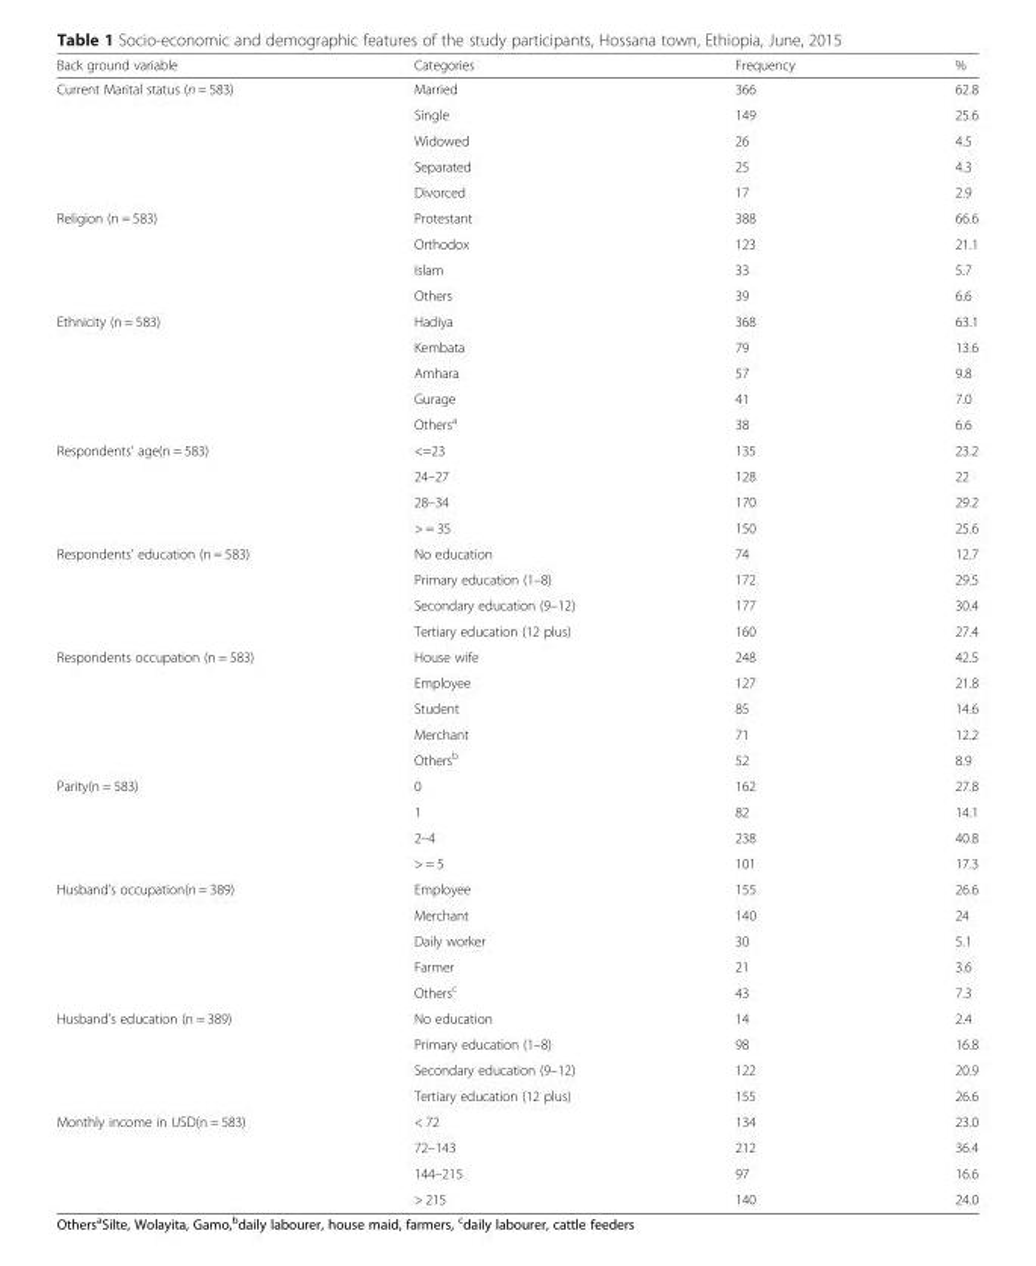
<table><thead><tr><td>Back ground variable</td><td>Categories</td><td>Frequency</td><td>%</td></tr></thead><tbody><tr><td rowspan="5">Current Marital status (n = 583)</td><td>Married</td><td>366</td><td>62.8</td></tr><tr><td>Single</td><td>149</td><td>25.6</td></tr><tr><td>Widowed</td><td>26</td><td>4.5</td></tr><tr><td>Separated</td><td>25</td><td>4.3</td></tr><tr><td>Divorced</td><td>17</td><td>2.9</td></tr><tr><td rowspan="4">Religion (n = 583)</td><td>Protestant</td><td>388</td><td>66.6</td></tr><tr><td>Orthodox</td><td>123</td><td>21.1</td></tr><tr><td>Islam</td><td>33</td><td>5.7</td></tr><tr><td>Others</td><td>39</td><td>6.6</td></tr><tr><td rowspan="5">Ethnicity (n = 583)</td><td>Hadiya</td><td>368</td><td>63.1</td></tr><tr><td>Kembata</td><td>79</td><td>13.6</td></tr><tr><td>Amhara</td><td>57</td><td>9.8</td></tr><tr><td>Gurage</td><td>41</td><td>7.0</td></tr><tr><td>Others<sup>a</sup></td><td>38</td><td>6.6</td></tr><tr><td rowspan="4">Respondents’ age(n = 583)</td><td>&lt;=23</td><td>135</td><td>23.2</td></tr><tr><td>24–27</td><td>128</td><td>22</td></tr><tr><td>28–34</td><td>170</td><td>29.2</td></tr><tr><td>&gt; = 35</td><td>150</td><td>25.6</td></tr><tr><td rowspan="4">Respondents’ education (n = 583)</td><td>No education</td><td>74</td><td>12.7</td></tr><tr><td>Primary education (1–8)</td><td>172</td><td>29.5</td></tr><tr><td>Secondary education (9–12)</td><td>177</td><td>30.4</td></tr><tr><td>Tertiary education (12 plus)</td><td>160</td><td>27.4</td></tr><tr><td rowspan="5">Respondents occupation (n = 583)</td><td>House wife</td><td>248</td><td>42.5</td></tr><tr><td>Employee</td><td>127</td><td>21.8</td></tr><tr><td>Student</td><td>85</td><td>14.6</td></tr><tr><td>Merchant</td><td>71</td><td>12.2</td></tr><tr><td>Others<sup>b</sup></td><td>52</td><td>8.9</td></tr><tr><td rowspan="4">Parity(n = 583)</td><td>0</td><td>162</td><td>27.8</td></tr><tr><td>1</td><td>82</td><td>14.1</td></tr><tr><td>2–4</td><td>238</td><td>40.8</td></tr><tr><td>&gt; = 5</td><td>101</td><td>17.3</td></tr><tr><td rowspan="5">Husband’s occupation(n = 389)</td><td>Employee</td><td>155</td><td>26.6</td></tr><tr><td>Merchant</td><td>140</td><td>24</td></tr><tr><td>Daily worker</td><td>30</td><td>5.1</td></tr><tr><td>Farmer</td><td>21</td><td>3.6</td></tr><tr><td>Others<sup>c</sup></td><td>43</td><td>7.3</td></tr><tr><td rowspan="4">Husband’s education (n = 389)</td><td>No education</td><td>14</td><td>2.4</td></tr><tr><td>Primary education (1–8)</td><td>98</td><td>16.8</td></tr><tr><td>Secondary education (9–12)</td><td>122</td><td>20.9</td></tr><tr><td>Tertiary education (12 plus)</td><td>155</td><td>26.6</td></tr><tr><td rowspan="4">Monthly income in USD(n = 583)</td><td>&lt; 72</td><td>134</td><td>23.0</td></tr><tr><td>72–143</td><td>212</td><td>36.4</td></tr><tr><td>144–215</td><td>97</td><td>16.6</td></tr><tr><td>&gt; 215</td><td>140</td><td>24.0</td></tr></tbody></table>